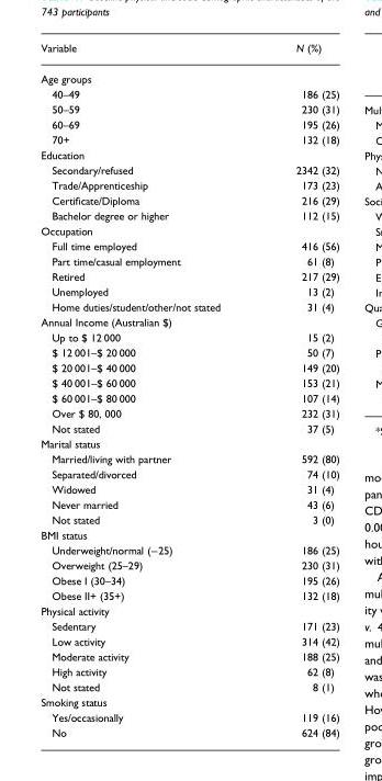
<table><thead><tr><td>Variable</td><td>N (%)</td></tr></thead><tbody><tr><td colspan="2">Age groups</td></tr><tr><td>40–49</td><td>186 (25)</td></tr><tr><td>50–59</td><td>230 (31)</td></tr><tr><td>60–69</td><td>195 (26)</td></tr><tr><td>70+</td><td>132 (18)</td></tr><tr><td colspan="2">Education</td></tr><tr><td>Secondary/refused</td><td>2342 (32)</td></tr><tr><td>Trade/Apprenticeship</td><td>173 (23)</td></tr><tr><td>Certificate/Diploma</td><td>216 (29)</td></tr><tr><td>Bachelor degree or higher</td><td>112 (15)</td></tr><tr><td colspan="2">Occupation</td></tr><tr><td>Full time employed</td><td>416 (56)</td></tr><tr><td>Part time/casual employment</td><td>61 (8)</td></tr><tr><td>Retired</td><td>217 (29)</td></tr><tr><td>Unemployed</td><td>13 (2)</td></tr><tr><td>Home duties/student/other/not stated</td><td>31 (4)</td></tr><tr><td colspan="2">Annual Income (Australian $)</td></tr><tr><td>Up to $ 12 000</td><td>15 (2)</td></tr><tr><td>$ 12 001–$ 20 000</td><td>50 (7)</td></tr><tr><td>$ 20 001–$ 40 000</td><td>149 (20)</td></tr><tr><td>$ 40 001–$ 60 000</td><td>153 (21)</td></tr><tr><td>$ 60 001–$ 80 000</td><td>107 (14)</td></tr><tr><td>Over $ 80, 000</td><td>232 (31)</td></tr><tr><td>Not stated</td><td>37 (5)</td></tr><tr><td colspan="2">Marital status</td></tr><tr><td>Married/living with partner</td><td>592 (80)</td></tr><tr><td>Separated/divorced</td><td>74 (10)</td></tr><tr><td>Widowed</td><td>31 (4)</td></tr><tr><td>Never married</td><td>43 (6)</td></tr><tr><td>Not stated</td><td>3 (0)</td></tr><tr><td colspan="2">BMI status</td></tr><tr><td>Underweight/normal (−25)</td><td>186 (25)</td></tr><tr><td>Overweight (25–29)</td><td>230 (31)</td></tr><tr><td>Obese I (30–34)</td><td>195 (26)</td></tr><tr><td>Obese II+ (35+)</td><td>132 (18)</td></tr><tr><td colspan="2">Physical activity</td></tr><tr><td>Sedentary</td><td>171 (23)</td></tr><tr><td>Low activity</td><td>314 (42)</td></tr><tr><td>Moderate activity</td><td>188 (25)</td></tr><tr><td>High activity</td><td>62 (8)</td></tr><tr><td>Not stated</td><td>8 (1)</td></tr><tr><td colspan="2">Smoking status</td></tr><tr><td>Yes/occasionally</td><td>119 (16)</td></tr><tr><td>No</td><td>624 (84)</td></tr></tbody></table>